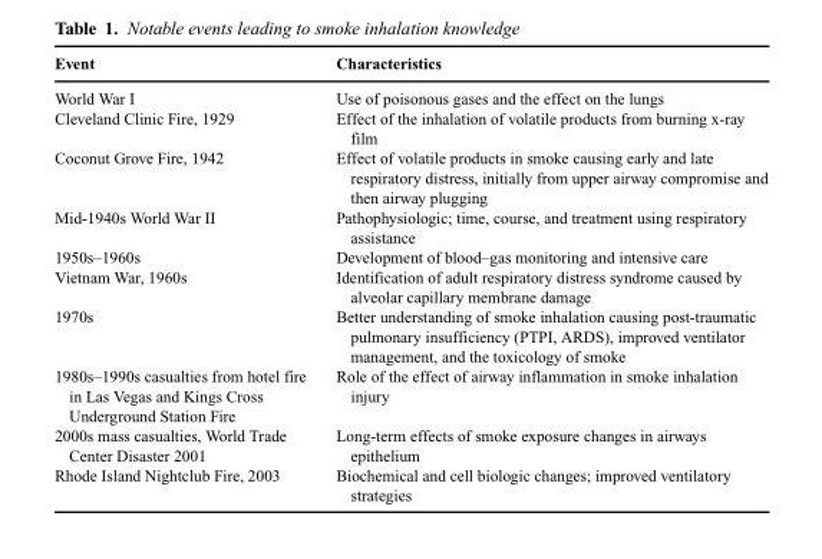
<table><thead><tr><td>Event</td><td>Characteristics</td></tr></thead><tbody><tr><td>World War I</td><td>Use of poisonous gases and the effect on the lungs</td></tr><tr><td>Cleveland Clinic Fire, 1929</td><td>Effect of the inhalation of volatile products from burning x-ray film</td></tr><tr><td>Coconut Grove Fire, 1942</td><td>Effect of volatile products in smoke causing early and late respiratory distress, initially from upper airway compromise and then airway plugging</td></tr><tr><td>Mid-1940s World War II</td><td>Pathophysiologic; time, course, and treatment using respiratory assistance</td></tr><tr><td>1950s–1960s</td><td>Development of blood–gas monitoring and intensive care</td></tr><tr><td>Vietnam War, 1960s</td><td>Identification of adult respiratory distress syndrome caused by alveolar capillary membrane damage</td></tr><tr><td>1970s</td><td>Better understanding of smoke inhalation causing post-traumatic pulmonary insufficiency (PTPI, ARDS), improved ventilator management, and the toxicology of smoke</td></tr><tr><td>1980s–1990s casualties from hotel fire in Las Vegas and Kings Cross Underground Station Fire</td><td>Role of the effect of airway inflammation in smoke inhalation injury</td></tr><tr><td>2000s mass casualties, World Trade Center Disaster 2001</td><td>Long-term effects of smoke exposure changes in airways epithelium</td></tr><tr><td>Rhode Island Nightclub Fire, 2003</td><td>Biochemical and cell biologic changes; improved ventilatory strategies</td></tr></tbody></table>